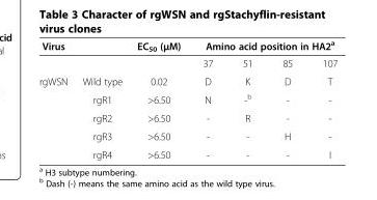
<table><thead><tr><td rowspan="2">Virus</td><td rowspan="2"></td><td rowspan="2">EC<sub>50</sub> (μM)</td><td colspan="4">Amino acid position in HA2<sup>a</sup></td></tr><tr><td>37</td><td>51</td><td>85</td><td>107</td></tr></thead><tbody><tr><td rowspan="5">rgWSN</td><td>Wild type</td><td>0.02</td><td>D</td><td>K</td><td>D</td><td>T</td></tr><tr><td>rgR1</td><td>&gt;6.50</td><td>N</td><td>-<sup>b</sup></td><td>-</td><td>-</td></tr><tr><td>rgR2</td><td>&gt;6.50</td><td>-</td><td>R</td><td>-</td><td>-</td></tr><tr><td>rgR3</td><td>&gt;6.50</td><td>-</td><td>-</td><td>H</td><td>-</td></tr><tr><td>rgR4</td><td>&gt;6.50</td><td>-</td><td>-</td><td>-</td><td>I</td></tr></tbody></table>